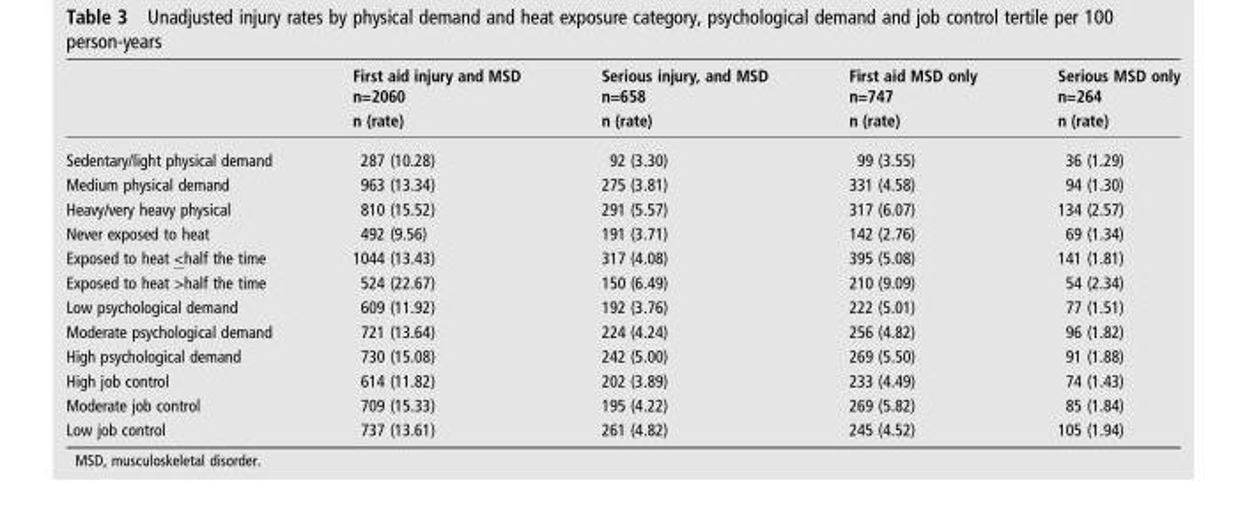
<table><thead><tr><td rowspan="2"></td><td rowspan="2">First aid injury and MSD n=2060 n (rate)</td><td rowspan="2">Serious injury, and MSD n=658 n (rate)</td><td rowspan="2">First aid MSD only n=747 n (rate)</td><td rowspan="2">Serious MSD only n=264 n (rate)</td></tr><tr></tr></thead><tbody><tr><td>Sedentary/light physical demand</td><td>287 (10.28)</td><td>92 (3.30)</td><td>99 (3.55)</td><td>36 (1.29)</td></tr><tr><td>Medium physical demand</td><td>963 (13.34)</td><td>275 (3.81)</td><td>331 (4.58)</td><td>94 (1.30)</td></tr><tr><td>Heavy/very heavy physical</td><td>810 (15.52)</td><td>291 (5.57)</td><td>317 (6.07)</td><td>134 (2.57)</td></tr><tr><td>Never exposed to heat</td><td>492 (9.56)</td><td>191 (3.71)</td><td>142 (2.76)</td><td>69 (1.34)</td></tr><tr><td>Exposed to heat &lt;half the time</td><td>1044 (13.43)</td><td>317 (4.08)</td><td>395 (5.08)</td><td>141 (1.81)</td></tr><tr><td>Exposed to heat &gt;half the time</td><td>524 (22.67)</td><td>150 (6.49)</td><td>210 (9.09)</td><td>54 (2.34)</td></tr><tr><td>Low psychological demand</td><td>609 (11.92)</td><td>192 (3.76)</td><td>222 (5.01)</td><td>77 (1.51)</td></tr><tr><td>Moderate psychological demand</td><td>721 (13.64)</td><td>224 (4.24)</td><td>256 (4.82)</td><td>96 (1.82)</td></tr><tr><td>High psychological demand</td><td>730 (15.08)</td><td>242 (5.00)</td><td>269 (5.50)</td><td>91 (1.88)</td></tr><tr><td>High job control</td><td>614 (11.82)</td><td>202 (3.89)</td><td>233 (4.49)</td><td>74 (1.43)</td></tr><tr><td>Moderate job control</td><td>709 (15.33)</td><td>195 (4.22)</td><td>269 (5.82)</td><td>85 (1.84)</td></tr><tr><td>Low job control</td><td>737 (13.61)</td><td>261 (4.82)</td><td>245 (4.52)</td><td>105 (1.94)</td></tr></tbody></table>